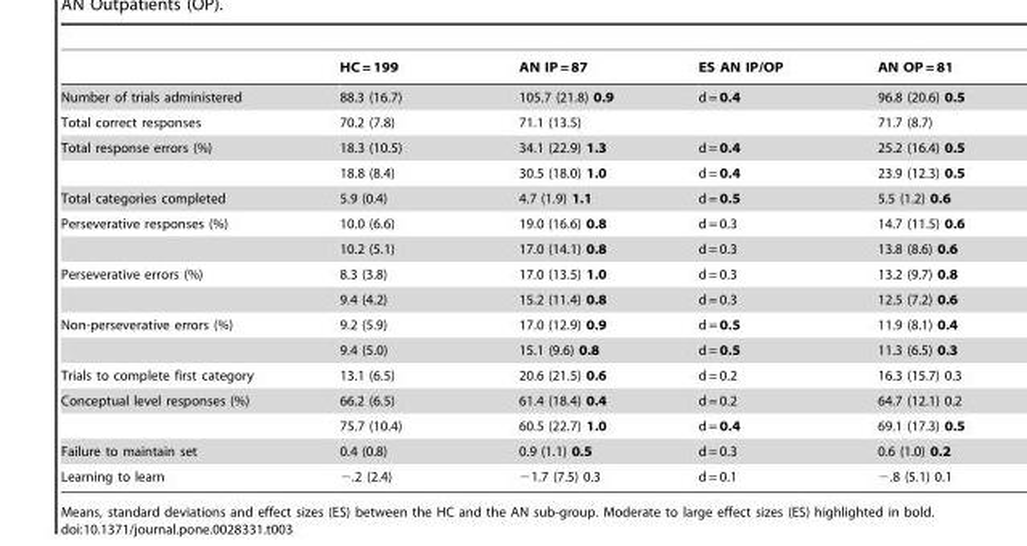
<table><thead><tr><td></td><td>HC = 199</td><td>AN IP = 87</td><td>ES AN IP/OP</td><td>AN OP = 81</td></tr></thead><tbody><tr><td>Number of trials administered</td><td>88.3 (16.7)</td><td>105.7 (21.8) 0.9</td><td>d = 0.4</td><td>96.8 (20.6) 0.5</td></tr><tr><td>Total correct responses</td><td>70.2 (7.8)</td><td>71.1 (13.5)</td><td></td><td>71.7 (8.7)</td></tr><tr><td rowspan="2">Total response errors (%)</td><td>18.3 (10.5)</td><td>34.1 (22.9) 1.3</td><td>d = 0.4</td><td>25.2 (16.4) 0.5</td></tr><tr><td>18.8 (8.4)</td><td>30.5 (18.0) 1.0</td><td>d = 0.4</td><td>23.9 (12.3) 0.5</td></tr><tr><td>Total categories completed</td><td>5.9 (0.4)</td><td>4.7 (1.9) 1.1</td><td>d = 0.5</td><td>5.5 (1.2) 0.6</td></tr><tr><td rowspan="2">Perseverative responses (%)</td><td>10.0 (6.6)</td><td>19.0 (16.6) 0.8</td><td>d = 0.3</td><td>14.7 (11.5) 0.6</td></tr><tr><td>10.2 (5.1)</td><td>17.0 (14.1) 0.8</td><td>d = 0.3</td><td>13.8 (8.6) 0.6</td></tr><tr><td rowspan="2">Perseverative errors (%)</td><td>8.3 (3.8)</td><td>17.0 (13.5) 1.0</td><td>d = 0.3</td><td>13.2 (9.7) 0.8</td></tr><tr><td>9.4 (4.2)</td><td>15.2 (11.4) 0.8</td><td>d = 0.3</td><td>12.5 (7.2) 0.6</td></tr><tr><td rowspan="2">Non-perseverative errors (%)</td><td>9.2 (5.9)</td><td>17.0 (12.9) 0.9</td><td>d = 0.5</td><td>11.9 (8.1) 0.4</td></tr><tr><td>9.4 (5.0)</td><td>15.1 (9.6) 0.8</td><td>d = 0.5</td><td>11.3 (6.5) 0.3</td></tr><tr><td>Trials to complete first category</td><td>13.1 (6.5)</td><td>20.6 (21.5) 0.6</td><td>d = 0.2</td><td>16.3 (15.7) 0.3</td></tr><tr><td rowspan="2">Conceptual level responses (%)</td><td>66.2 (6.5)</td><td>61.4 (18.4) 0.4</td><td>d = 0.2</td><td>64.7 (12.1) 0.2</td></tr><tr><td>75.7 (10.4)</td><td>60.5 (22.7) 1.0</td><td>d = 0.4</td><td>69.1 (17.3) 0.5</td></tr><tr><td>Failure to maintain set</td><td>0.4 (0.8)</td><td>0.9 (1.1) 0.5</td><td>d = 0.3</td><td>0.6 (1.0) 0.2</td></tr><tr><td>Learning to learn</td><td>−.2 (2.4)</td><td>−1.7 (7.5) 0.3</td><td>d = 0.1</td><td>−.8 (5.1) 0.1</td></tr></tbody></table>